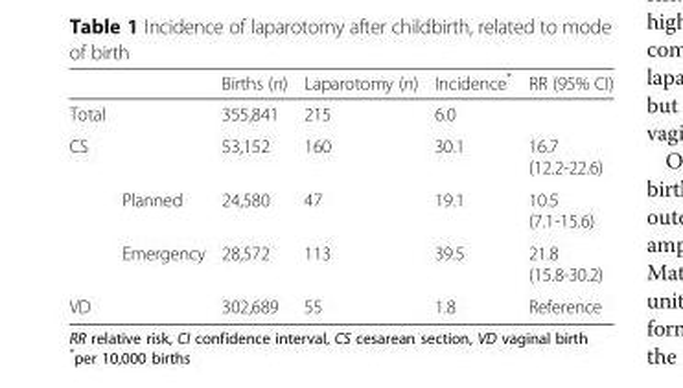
<table><thead><tr><td></td><td></td><td>Births (n)</td><td>Laparotomy (n)</td><td>Incidence*</td><td>RR (95% CI)</td></tr></thead><tbody><tr><td>Total</td><td></td><td>355,841</td><td>215</td><td>6.0</td><td></td></tr><tr><td rowspan="3">CS</td><td></td><td>53,152</td><td>160</td><td>30.1</td><td>16.7 (12.2-22.6)</td></tr><tr><td>Planned</td><td>24,580</td><td>47</td><td>19.1</td><td>10.5 (7.1-15.6)</td></tr><tr><td>Emergency</td><td>28,572</td><td>113</td><td>39.5</td><td>21.8 (15.8-30.2)</td></tr><tr><td>VD</td><td></td><td>302,689</td><td>55</td><td>1.8</td><td>Reference</td></tr></tbody></table>